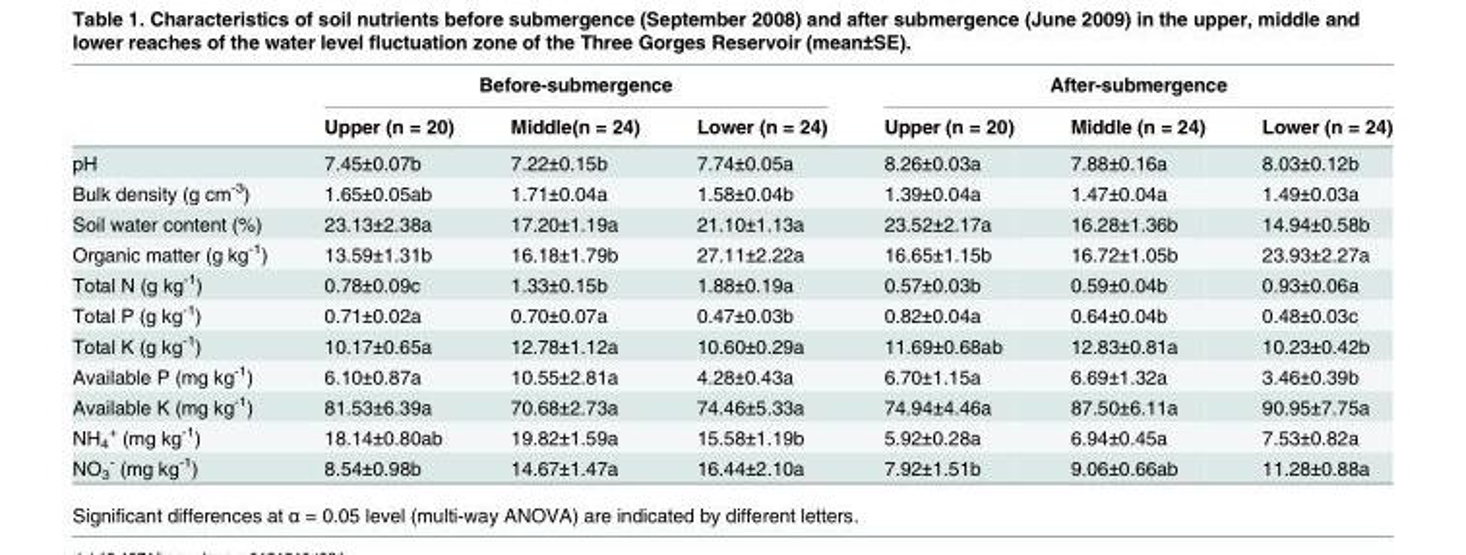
<table><thead><tr><td rowspan="2"></td><td colspan="3">Before-submergence</td><td colspan="3">After-submergence</td></tr><tr><td>Upper (n = 20)</td><td>Middle(n = 24)</td><td>Lower (n = 24)</td><td>Upper (n = 20)</td><td>Middle (n = 24)</td><td>Lower (n = 24)</td></tr></thead><tbody><tr><td>pH</td><td>7.45±0.07b</td><td>7.22±0.15b</td><td>7.74±0.05a</td><td>8.26±0.03a</td><td>7.88±0.16a</td><td>8.03±0.12b</td></tr><tr><td>Bulk density (g cm<sup>-3</sup>)</td><td>1.65±0.05ab</td><td>1.71±0.04a</td><td>1.58±0.04b</td><td>1.39±0.04a</td><td>1.47±0.04a</td><td>1.49±0.03a</td></tr><tr><td>Soil water content (%)</td><td>23.13±2.38a</td><td>17.20±1.19a</td><td>21.10±1.13a</td><td>23.52±2.17a</td><td>16.28±1.36b</td><td>14.94±0.58b</td></tr><tr><td>Organic matter (g kg<sup>-1</sup>)</td><td>13.59±1.31b</td><td>16.18±1.79b</td><td>27.11±2.22a</td><td>16.65±1.15b</td><td>16.72±1.05b</td><td>23.93±2.27a</td></tr><tr><td>Total N (g kg<sup>-1</sup>)</td><td>0.78±0.09c</td><td>1.33±0.15b</td><td>1.88±0.19a</td><td>0.57±0.03b</td><td>0.59±0.04b</td><td>0.93±0.06a</td></tr><tr><td>Total P (g kg<sup>-1</sup>)</td><td>0.71±0.02a</td><td>0.70±0.07a</td><td>0.47±0.03b</td><td>0.82±0.04a</td><td>0.64±0.04b</td><td>0.48±0.03c</td></tr><tr><td>Total K (g kg<sup>-1</sup>)</td><td>10.17±0.65a</td><td>12.78±1.12a</td><td>10.60±0.29a</td><td>11.69±0.68ab</td><td>12.83±0.81a</td><td>10.23±0.42b</td></tr><tr><td>Available P (mg kg<sup>-1</sup>)</td><td>6.10±0.87a</td><td>10.55±2.81a</td><td>4.28±0.43a</td><td>6.70±1.15a</td><td>6.69±1.32a</td><td>3.46±0.39b</td></tr><tr><td>Available K (mg kg<sup>-1</sup>)</td><td>81.53±6.39a</td><td>70.68±2.73a</td><td>74.46±5.33a</td><td>74.94±4.46a</td><td>87.50±6.11a</td><td>90.95±7.75a</td></tr><tr><td>NH<sub>4</sub> <sup>+</sup> (mg kg<sup>-1</sup>)</td><td>18.14±0.80ab</td><td>19.82±1.59a</td><td>15.58±1.19b</td><td>5.92±0.28a</td><td>6.94±0.45a</td><td>7.53±0.82a</td></tr><tr><td>NO<sub>3</sub> <sup>-</sup> (mg kg<sup>-1</sup>)</td><td>8.54±0.98b</td><td>14.67±1.47a</td><td>16.44±2.10a</td><td>7.92±1.51b</td><td>9.06±0.66ab</td><td>11.28±0.88a</td></tr></tbody></table>